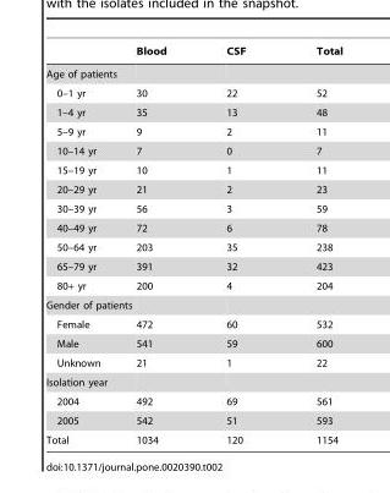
<table><thead><tr><td></td><td>Blood</td><td>CSF</td><td>Total</td></tr></thead><tbody><tr><td colspan="4">Age of patients</td></tr><tr><td>0–1 yr</td><td>30</td><td>22</td><td>52</td></tr><tr><td>1–4 yr</td><td>35</td><td>13</td><td>48</td></tr><tr><td>5–9 yr</td><td>9</td><td>2</td><td>11</td></tr><tr><td>10–14 yr</td><td>7</td><td>0</td><td>7</td></tr><tr><td>15–19 yr</td><td>10</td><td>1</td><td>11</td></tr><tr><td>20–29 yr</td><td>21</td><td>2</td><td>23</td></tr><tr><td>30–39 yr</td><td>56</td><td>3</td><td>59</td></tr><tr><td>40–49 yr</td><td>72</td><td>6</td><td>78</td></tr><tr><td>50–64 yr</td><td>203</td><td>35</td><td>238</td></tr><tr><td>65–79 yr</td><td>391</td><td>32</td><td>423</td></tr><tr><td>80+ yr</td><td>200</td><td>4</td><td>204</td></tr><tr><td colspan="4">Gender of patients</td></tr><tr><td>Female</td><td>472</td><td>60</td><td>532</td></tr><tr><td>Male</td><td>541</td><td>59</td><td>600</td></tr><tr><td>Unknown</td><td>21</td><td>1</td><td>22</td></tr><tr><td colspan="4">Isolation year</td></tr><tr><td>2004</td><td>492</td><td>69</td><td>561</td></tr><tr><td>2005</td><td>542</td><td>51</td><td>593</td></tr><tr><td>Total</td><td>1034</td><td>120</td><td>1154</td></tr></tbody></table>